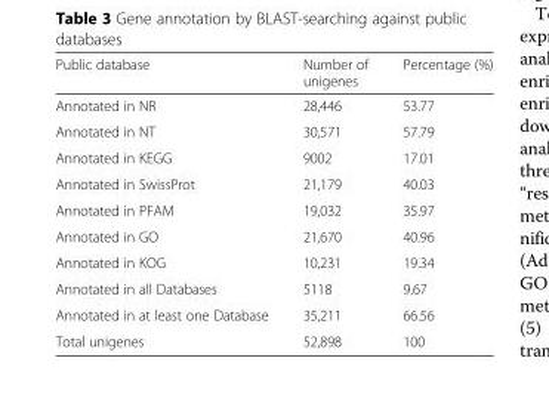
<table><thead><tr><td>Public database</td><td>Number of unigenes</td><td>Percentage (%)</td></tr></thead><tbody><tr><td>Annotated in NR</td><td>28,446</td><td>53.77</td></tr><tr><td>Annotated in NT</td><td>30,571</td><td>57.79</td></tr><tr><td>Annotated in KEGG</td><td>9002</td><td>17.01</td></tr><tr><td>Annotated in SwissProt</td><td>21,179</td><td>40.03</td></tr><tr><td>Annotated in PFAM</td><td>19,032</td><td>35.97</td></tr><tr><td>Annotated in GO</td><td>21,670</td><td>40.96</td></tr><tr><td>Annotated in KOG</td><td>10,231</td><td>19.34</td></tr><tr><td>Annotated in all Databases</td><td>5118</td><td>9.67</td></tr><tr><td>Annotated in at least one Database</td><td>35,211</td><td>66.56</td></tr><tr><td>Total unigenes</td><td>52,898</td><td>100</td></tr></tbody></table>